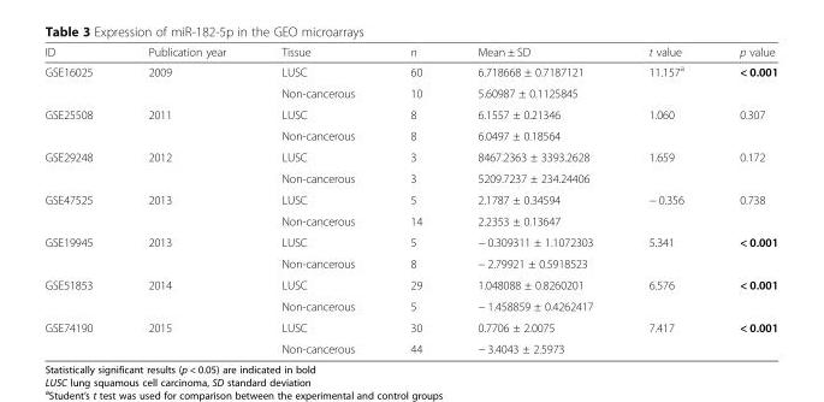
<table><thead><tr><td>ID</td><td>Publication year</td><td>Tissue</td><td>n</td><td>Mean ± SD</td><td>t value</td><td>p value</td></tr></thead><tbody><tr><td rowspan="2">GSE16025</td><td rowspan="2">2009</td><td>LUSC</td><td>60</td><td>6.718668 ± 0.7187121</td><td rowspan="2">11.157<sup>a</sup></td><td rowspan="2">&lt; 0.001</td></tr><tr><td>Non-cancerous</td><td>10</td><td>5.60987 ± 0.1125845</td></tr><tr><td rowspan="2">GSE25508</td><td rowspan="2">2011</td><td>LUSC</td><td>8</td><td>6.1557 ± 0.21346</td><td rowspan="2">1.060</td><td rowspan="2">0.307</td></tr><tr><td>Non-cancerous</td><td>8</td><td>6.0497 ± 0.18564</td></tr><tr><td rowspan="2">GSE29248</td><td rowspan="2">2012</td><td>LUSC</td><td>3</td><td>8467.2363 ± 3393.2628</td><td rowspan="2">1.659</td><td rowspan="2">0.172</td></tr><tr><td>Non-cancerous</td><td>3</td><td>5209.7237 ± 234.24406</td></tr><tr><td rowspan="2">GSE47525</td><td rowspan="2">2013</td><td>LUSC</td><td>5</td><td>2.1787 ± 0.34594</td><td rowspan="2">− 0.356</td><td rowspan="2">0.738</td></tr><tr><td>Non-cancerous</td><td>14</td><td>2.2353 ± 0.13647</td></tr><tr><td rowspan="2">GSE19945</td><td rowspan="2">2013</td><td>LUSC</td><td>5</td><td>− 0.309311 ± 1.1072303</td><td rowspan="2">5.341</td><td rowspan="2">&lt; 0.001</td></tr><tr><td>Non-cancerous</td><td>8</td><td>− 2.79921 ± 0.5918523</td></tr><tr><td rowspan="2">GSE51853</td><td rowspan="2">2014</td><td>LUSC</td><td>29</td><td>1.048088 ± 0.8260201</td><td rowspan="2">6.576</td><td rowspan="2">&lt; 0.001</td></tr><tr><td>Non-cancerous</td><td>5</td><td>− 1.458859 ± 0.4262417</td></tr><tr><td rowspan="2">GSE74190</td><td rowspan="2">2015</td><td>LUSC</td><td>30</td><td>0.7706 ± 2.0075</td><td rowspan="2">7.417</td><td rowspan="2">&lt; 0.001</td></tr><tr><td>Non-cancerous</td><td>44</td><td>− 3.4043 ± 2.5973</td></tr></tbody></table>